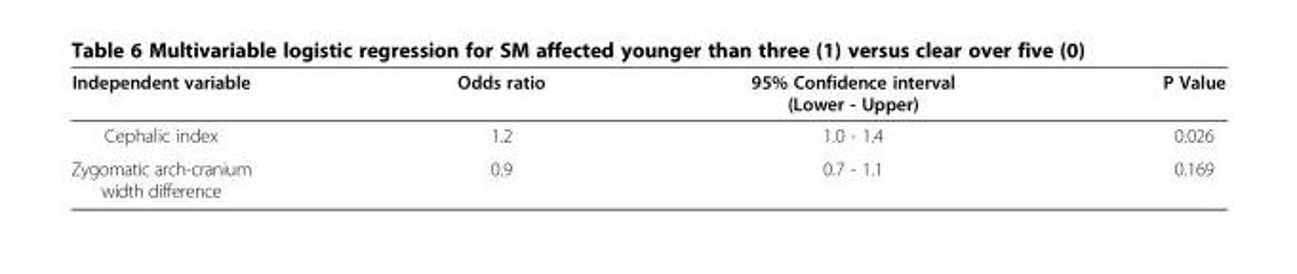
<table><thead><tr><td>Independent variable</td><td>Odds ratio</td><td>95% Confidence interval (Lower - Upper)</td><td>P Value</td></tr></thead><tbody><tr><td>Cephalic index</td><td>1.2</td><td>1.0 - 1.4</td><td>0.026</td></tr><tr><td>Zygomatic arch-cranium width difference</td><td>0.9</td><td>0.7 - 1.1</td><td>0.169</td></tr></tbody></table>